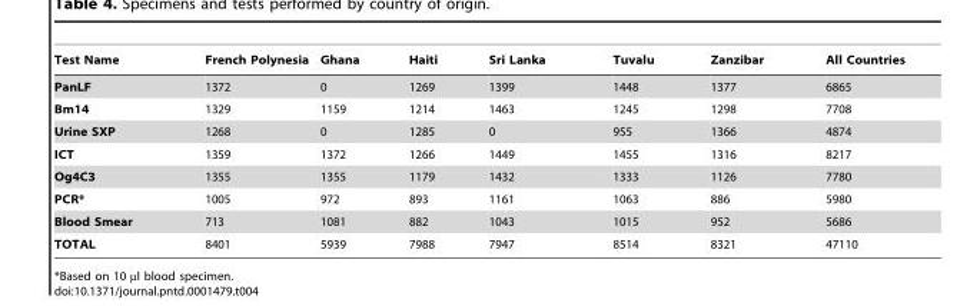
<table><thead><tr><td>Test Name</td><td>French Polynesia</td><td>Ghana</td><td>Haiti</td><td>Sri Lanka</td><td>Tuvalu</td><td>Zanzibar</td><td>All Countries</td></tr></thead><tbody><tr><td>PanLF</td><td>1372</td><td>0</td><td>1269</td><td>1399</td><td>1448</td><td>1377</td><td>6865</td></tr><tr><td>Bm14</td><td>1329</td><td>1159</td><td>1214</td><td>1463</td><td>1245</td><td>1298</td><td>7708</td></tr><tr><td>Urine SXP</td><td>1268</td><td>0</td><td>1285</td><td>0</td><td>955</td><td>1366</td><td>4874</td></tr><tr><td>ICT</td><td>1359</td><td>1372</td><td>1266</td><td>1449</td><td>1455</td><td>1316</td><td>8217</td></tr><tr><td>Og4C3</td><td>1355</td><td>1355</td><td>1179</td><td>1432</td><td>1333</td><td>1126</td><td>7780</td></tr><tr><td>PCR*</td><td>1005</td><td>972</td><td>893</td><td>1161</td><td>1063</td><td>886</td><td>5980</td></tr><tr><td>Blood Smear</td><td>713</td><td>1081</td><td>882</td><td>1043</td><td>1015</td><td>952</td><td>5686</td></tr><tr><td>TOTAL</td><td>8401</td><td>5939</td><td>7988</td><td>7947</td><td>8514</td><td>8321</td><td>47110</td></tr></tbody></table>